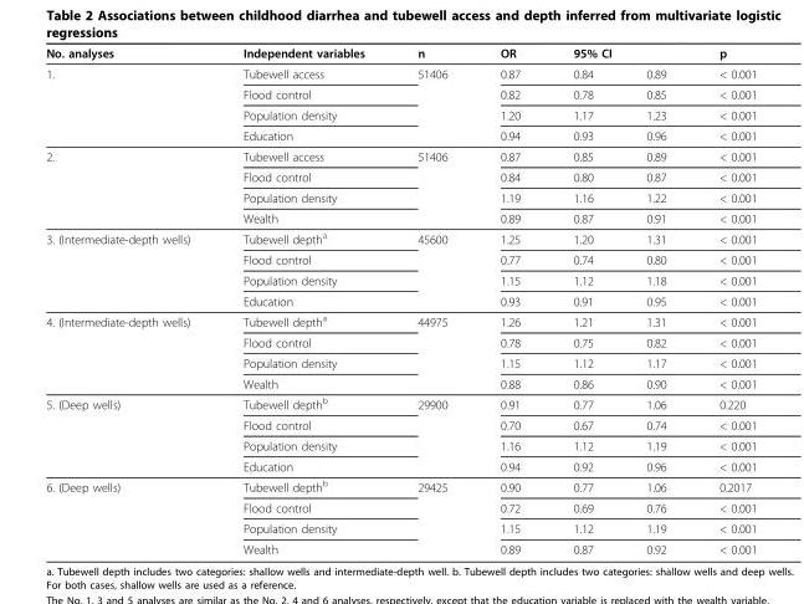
<table><thead><tr><td rowspan="2">No. analyses 1.</td><td rowspan="2">Independent variables Tubewell access</td><td rowspan="2">n 51406</td><td rowspan="2">OR 0.87</td><td colspan="2">95% CI</td><td rowspan="2">p &lt; 0.001</td></tr><tr><td>0.84</td><td>0.89</td></tr></thead><tbody><tr><td></td><td>Flood control</td><td></td><td>0.82</td><td>0.78</td><td>0.85</td><td>&lt; 0.001</td></tr><tr><td></td><td>Population density</td><td></td><td>1.20</td><td>1.17</td><td>1.23</td><td>&lt; 0.001</td></tr><tr><td></td><td>Education</td><td></td><td>0.94</td><td>0.93</td><td>0.96</td><td>&lt; 0.001</td></tr><tr><td rowspan="4">2.</td><td>Tubewell access</td><td>51406</td><td>0.87</td><td>0.85</td><td>0.89</td><td>&lt; 0.001</td></tr><tr><td>Flood control</td><td></td><td>0.84</td><td>0.80</td><td>0.87</td><td>&lt; 0.001</td></tr><tr><td>Population density</td><td></td><td>1.19</td><td>1.16</td><td>1.22</td><td>&lt; 0.001</td></tr><tr><td>Wealth</td><td></td><td>0.89</td><td>0.87</td><td>0.91</td><td>&lt; 0.001</td></tr><tr><td rowspan="4">3. (Intermediate-depth wells)</td><td>Tubewell deptha</td><td>45600</td><td>1.25</td><td>1.20</td><td>1.31</td><td>&lt; 0.001</td></tr><tr><td>Flood control</td><td></td><td>0.77</td><td>0.74</td><td>0.80</td><td>&lt; 0.001</td></tr><tr><td>Population density</td><td></td><td>1.15</td><td>1.12</td><td>1.18</td><td>&lt; 0.001</td></tr><tr><td>Education</td><td></td><td>0.93</td><td>0.91</td><td>0.95</td><td>&lt; 0.001</td></tr><tr><td rowspan="4">4. (Intermediate-depth wells)</td><td>Tubewell deptha</td><td>44975</td><td>1.26</td><td>1.21</td><td>1.31</td><td>&lt; 0.001</td></tr><tr><td>Flood control</td><td></td><td>0.78</td><td>0.75</td><td>0.82</td><td>&lt; 0.001</td></tr><tr><td>Population density</td><td></td><td>1.15</td><td>1.12</td><td>1.17</td><td>&lt; 0.001</td></tr><tr><td>Wealth</td><td></td><td>0.88</td><td>0.86</td><td>0.90</td><td>&lt; 0.001</td></tr><tr><td rowspan="4">5. (Deep wells)</td><td>Tubewell depthb</td><td>29900</td><td>0.91</td><td>0.77</td><td>1.06</td><td>0.220</td></tr><tr><td>Flood control</td><td></td><td>0.70</td><td>0.67</td><td>0.74</td><td>&lt; 0.001</td></tr><tr><td>Population density</td><td></td><td>1.16</td><td>1.12</td><td>1.19</td><td>&lt; 0.001</td></tr><tr><td>Education</td><td></td><td>0.94</td><td>0.92</td><td>0.96</td><td>&lt; 0.001</td></tr><tr><td rowspan="4">6. (Deep wells)</td><td>Tubewell depthb</td><td>29425</td><td>0.90</td><td>0.77</td><td>1.06</td><td>0.2017</td></tr><tr><td>Flood control</td><td></td><td>0.72</td><td>0.69</td><td>0.76</td><td>&lt; 0.001</td></tr><tr><td>Population density</td><td></td><td>1.15</td><td>1.12</td><td>1.19</td><td>&lt; 0.001</td></tr><tr><td>Wealth</td><td></td><td>0.89</td><td>0.87</td><td>0.92</td><td>&lt; 0.001</td></tr></tbody></table>